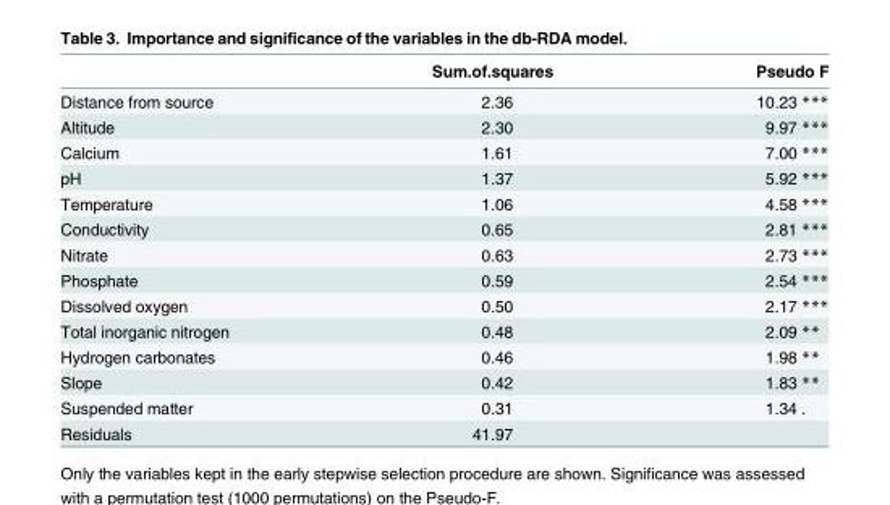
<table><thead><tr><td></td><td>Sum.of.squares</td><td>Pseudo F</td></tr></thead><tbody><tr><td>Distance from source</td><td>2.36</td><td>10.23 ***</td></tr><tr><td>Altitude</td><td>2.30</td><td>9.97 ***</td></tr><tr><td>Calcium</td><td>1.61</td><td>7.00 ***</td></tr><tr><td>pH</td><td>1.37</td><td>5.92 ***</td></tr><tr><td>Temperature</td><td>1.06</td><td>4.58 ***</td></tr><tr><td>Conductivity</td><td>0.65</td><td>2.81 ***</td></tr><tr><td>Nitrate</td><td>0.63</td><td>2.73 ***</td></tr><tr><td>Phosphate</td><td>0.59</td><td>2.54 ***</td></tr><tr><td>Dissolved oxygen</td><td>0.50</td><td>2.17 ***</td></tr><tr><td>Total inorganic nitrogen</td><td>0.48</td><td>2.09 **</td></tr><tr><td>Hydrogen carbonates</td><td>0.46</td><td>1.98 **</td></tr><tr><td>Slope</td><td>0.42</td><td>1.83 **</td></tr><tr><td>Suspended matter</td><td>0.31</td><td>1.34 .</td></tr><tr><td>Residuals</td><td>41.97</td><td></td></tr></tbody></table>